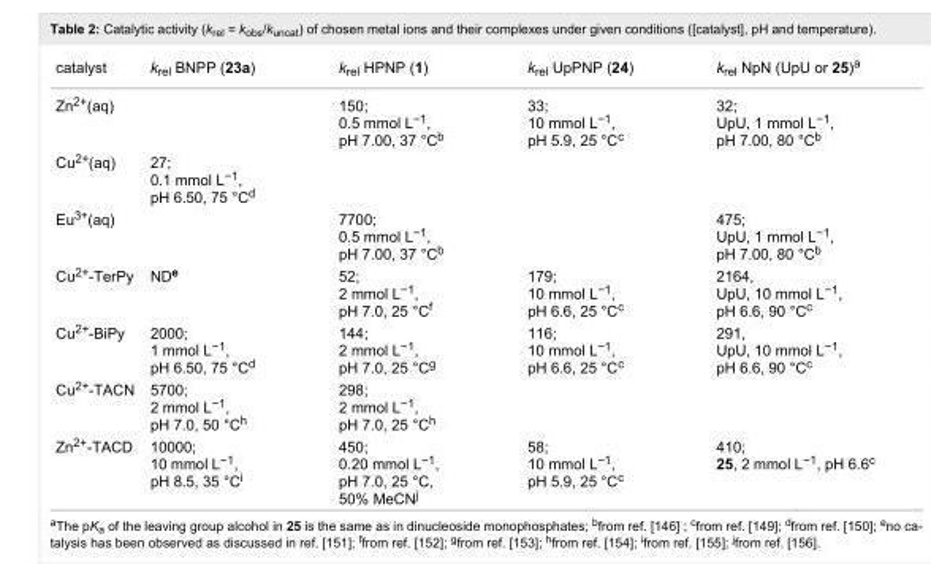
<table><tbody><tr><td>catalyst</td><td>k<sub>rel</sub> BNPP (23a)</td><td>k<sub>rel</sub> HPNP (1)</td><td>k<sub>rel</sub> UpPNP (24)</td><td>k<sub>rel</sub> NpN (UpU or 25)<sup>a</sup></td></tr><tr><td>Zn<sup>2+</sup>(aq)</td><td></td><td>150; 0.5 mmol L<sup>−1</sup>, pH 7.00, 37 °C<sup>b</sup></td><td>33; 10 mmol L<sup>−1</sup>, pH 5.9, 25 °C<sup>c</sup></td><td>32; UpU, 1 mmol L<sup>−1</sup>, pH 7.00, 80 °C<sup>b</sup></td></tr><tr><td>Cu<sup>2+</sup>(aq)</td><td>27; 0.1 mmol L<sup>−1</sup>, pH 6.50, 75 °C<sup>d</sup></td><td></td><td></td><td></td></tr><tr><td>Eu<sup>3+</sup>(aq)</td><td></td><td>7700; 0.5 mmol L<sup>−1</sup>, pH 7.00, 37 °C<sup>b</sup></td><td></td><td>475; UpU, 1 mmol L<sup>−1</sup>, pH 7.00, 80 °C<sup>b</sup></td></tr><tr><td>Cu<sup>2+</sup>-TerPy</td><td>ND<sup>e</sup></td><td>52; 2 mmol L<sup>−1</sup>, pH 7.0, 25 °C<sup>f</sup></td><td>179; 10 mmol L<sup>−1</sup>, pH 6.6, 25 °C<sup>c</sup></td><td>2164, UpU, 10 mmol L<sup>−1</sup>, pH 6.6, 90 °C<sup>c</sup></td></tr><tr><td>Cu<sup>2+</sup>-BiPy</td><td>2000; 1 mmol L<sup>−1</sup>, pH 6.50, 75 °C<sup>d</sup></td><td>144; 2 mmol L<sup>−1</sup>, pH 7.0, 25 °C<sup>g</sup></td><td>116; 10 mmol L<sup>−1</sup>, pH 6.6, 25 °C<sup>c</sup></td><td>291, UpU, 10 mmol L<sup>−1</sup>, pH 6.6, 90 °C<sup>c</sup></td></tr><tr><td>Cu<sup>2+</sup>-TACN</td><td>5700; 2 mmol L<sup>−1</sup>, pH 7.0, 50 °C<sup>h</sup></td><td>298; 2 mmol L<sup>−1</sup>, pH 7.0, 25 °C<sup>h</sup></td><td></td><td></td></tr><tr><td>Zn<sup>2+</sup>-TACD</td><td>10000; 10 mmol L<sup>−1</sup>, pH 8.5, 35 °C<sup>i</sup></td><td>450; 0.20 mmol L<sup>−1</sup>, pH 7.0, 25 °C, 50% MeCN<sup>j</sup></td><td>58; 10 mmol L<sup>−1</sup>, pH 5.9, 25 °C<sup>c</sup></td><td>410; 25, 2 mmol L<sup>−1</sup>, pH 6.6<sup>c</sup></td></tr></tbody></table>